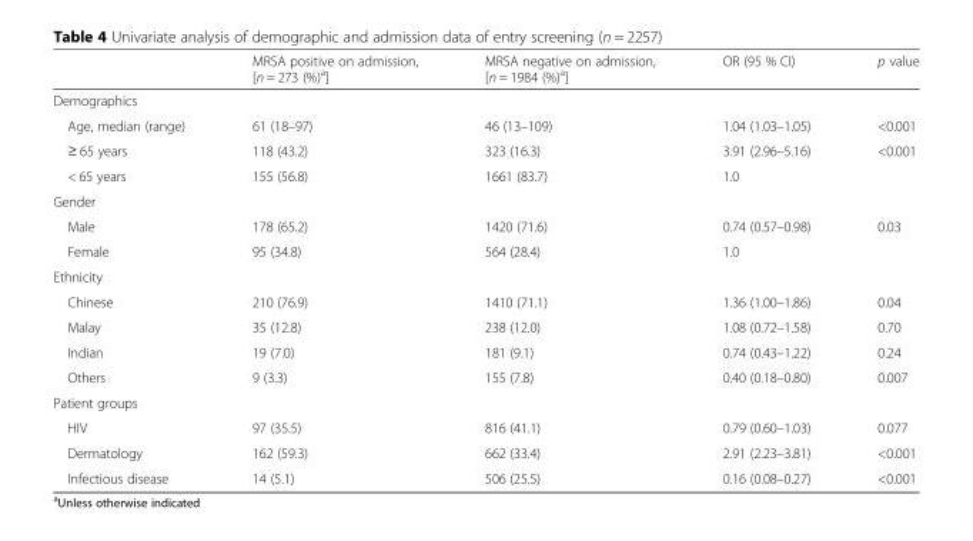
<table><thead><tr><td></td><td>MRSA positive on admission, [n = 273 (%)<sup>a</sup>]</td><td>MRSA negative on admission, [n = 1984 (%)<sup>a</sup>]</td><td>OR (95 % CI)</td><td>p value</td></tr></thead><tbody><tr><td colspan="5">Demographics</td></tr><tr><td>Age, median (range)</td><td>61 (18–97)</td><td>46 (13–109)</td><td>1.04 (1.03–1.05)</td><td>&lt;0.001</td></tr><tr><td>≥ 65 years</td><td>118 (43.2)</td><td>323 (16.3)</td><td>3.91 (2.96–5.16)</td><td>&lt;0.001</td></tr><tr><td>&lt; 65 years</td><td>155 (56.8)</td><td>1661 (83.7)</td><td>1.0</td><td></td></tr><tr><td colspan="5">Gender</td></tr><tr><td>Male</td><td>178 (65.2)</td><td>1420 (71.6)</td><td>0.74 (0.57–0.98)</td><td>0.03</td></tr><tr><td>Female</td><td>95 (34.8)</td><td>564 (28.4)</td><td>1.0</td><td></td></tr><tr><td colspan="5">Ethnicity</td></tr><tr><td>Chinese</td><td>210 (76.9)</td><td>1410 (71.1)</td><td>1.36 (1.00–1.86)</td><td>0.04</td></tr><tr><td>Malay</td><td>35 (12.8)</td><td>238 (12.0)</td><td>1.08 (0.72–1.58)</td><td>0.70</td></tr><tr><td>Indian</td><td>19 (7.0)</td><td>181 (9.1)</td><td>0.74 (0.43–1.22)</td><td>0.24</td></tr><tr><td>Others</td><td>9 (3.3)</td><td>155 (7.8)</td><td>0.40 (0.18–0.80)</td><td>0.007</td></tr><tr><td colspan="5">Patient groups</td></tr><tr><td>HIV</td><td>97 (35.5)</td><td>816 (41.1)</td><td>0.79 (0.60–1.03)</td><td>0.077</td></tr><tr><td>Dermatology</td><td>162 (59.3)</td><td>662 (33.4)</td><td>2.91 (2.23–3.81)</td><td>&lt;0.001</td></tr><tr><td>Infectious disease</td><td>14 (5.1)</td><td>506 (25.5)</td><td>0.16 (0.08–0.27)</td><td>&lt;0.001</td></tr></tbody></table>